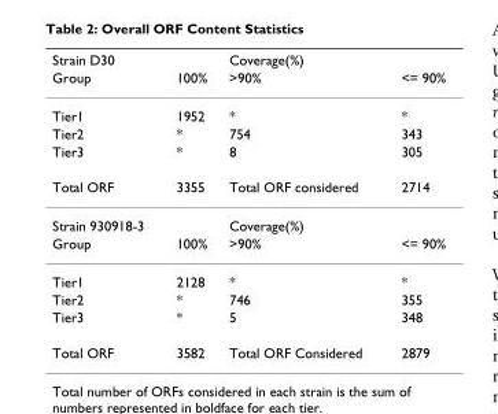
<table><thead><tr><td rowspan="2">Strain D30 Group</td><td rowspan="2">100%</td><td colspan="2">Coverage(%)</td></tr><tr><td>&gt;90%</td><td>&lt;= 90%</td></tr></thead><tbody><tr><td>Tier1</td><td>1952</td><td>*</td><td>*</td></tr><tr><td>Tier2</td><td>*</td><td>754</td><td>343</td></tr><tr><td>Tier3</td><td>*</td><td>8</td><td>305</td></tr><tr><td>Total ORF</td><td>3355</td><td>Total ORF considered</td><td>2714</td></tr><tr><td>Strain 930918-3</td><td></td><td colspan="2">Coverage(%)</td></tr><tr><td>Group</td><td>100%</td><td>&gt;90%</td><td>&lt;= 90%</td></tr><tr><td>Tier1</td><td>2128</td><td>*</td><td>*</td></tr><tr><td>Tier2</td><td>*</td><td>746</td><td>355</td></tr><tr><td>Tier3</td><td>*</td><td>5</td><td>348</td></tr><tr><td>Total ORF</td><td>3582</td><td>Total ORF Considered</td><td>2879</td></tr></tbody></table>